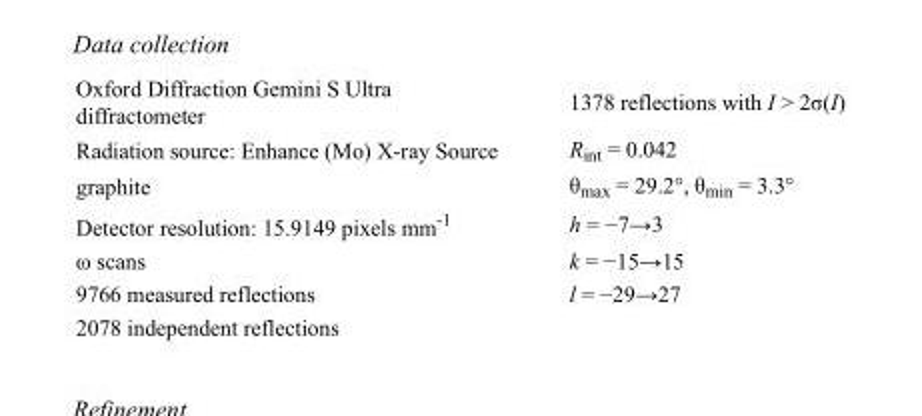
<table><tbody><tr><td>Oxford Diffraction Gemini S Ultra diffractometer</td><td>1378 reflections with I &gt; 2σ(I)</td></tr><tr><td>Radiation source: Enhance (Mo) X-ray Source</td><td>R<sub>int</sub> = 0.042</td></tr><tr><td>graphite</td><td>θ<sub>max</sub> = 29.2°, θ<sub>min</sub> = 3.3°</td></tr><tr><td>Detector resolution: 15.9149 pixels mm<sup>-1</sup></td><td>h = −7→3</td></tr><tr><td>ω scans</td><td>k = −15→15</td></tr><tr><td>9766 measured reflections</td><td>l = −29→27</td></tr><tr><td>2078 independent reflections</td><td></td></tr></tbody></table>